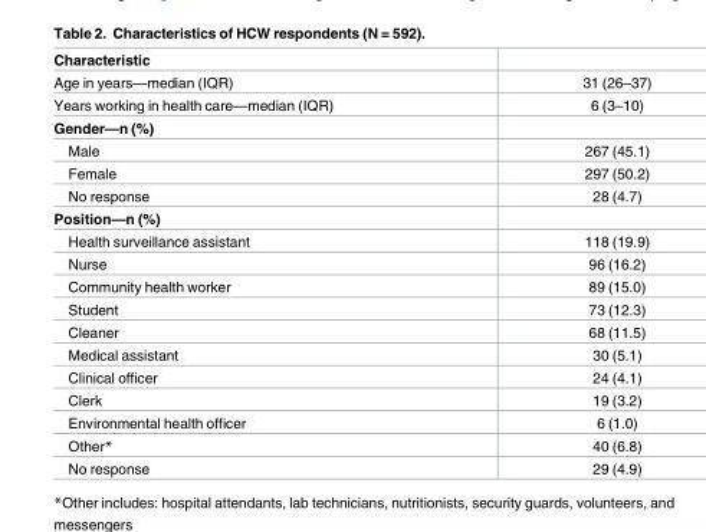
<table><thead><tr><td>Characteristic</td><td></td></tr></thead><tbody><tr><td>Age in years—median (IQR)</td><td>31 (26–37)</td></tr><tr><td>Years working in health care—median (IQR)</td><td>6 (3–10)</td></tr><tr><td colspan="2">Gender—n (%)</td></tr><tr><td>Male</td><td>267 (45.1)</td></tr><tr><td>Female</td><td>297 (50.2)</td></tr><tr><td>No response</td><td>28 (4.7)</td></tr><tr><td colspan="2">Position—n (%)</td></tr><tr><td>Health surveillance assistant</td><td>118 (19.9)</td></tr><tr><td>Nurse</td><td>96 (16.2)</td></tr><tr><td>Community health worker</td><td>89 (15.0)</td></tr><tr><td>Student</td><td>73 (12.3)</td></tr><tr><td>Cleaner</td><td>68 (11.5)</td></tr><tr><td>Medical assistant</td><td>30 (5.1)</td></tr><tr><td>Clinical officer</td><td>24 (4.1)</td></tr><tr><td>Clerk</td><td>19 (3.2)</td></tr><tr><td>Environmental health officer</td><td>6 (1.0)</td></tr><tr><td>Other*</td><td>40 (6.8)</td></tr><tr><td>No response</td><td>29 (4.9)</td></tr></tbody></table>